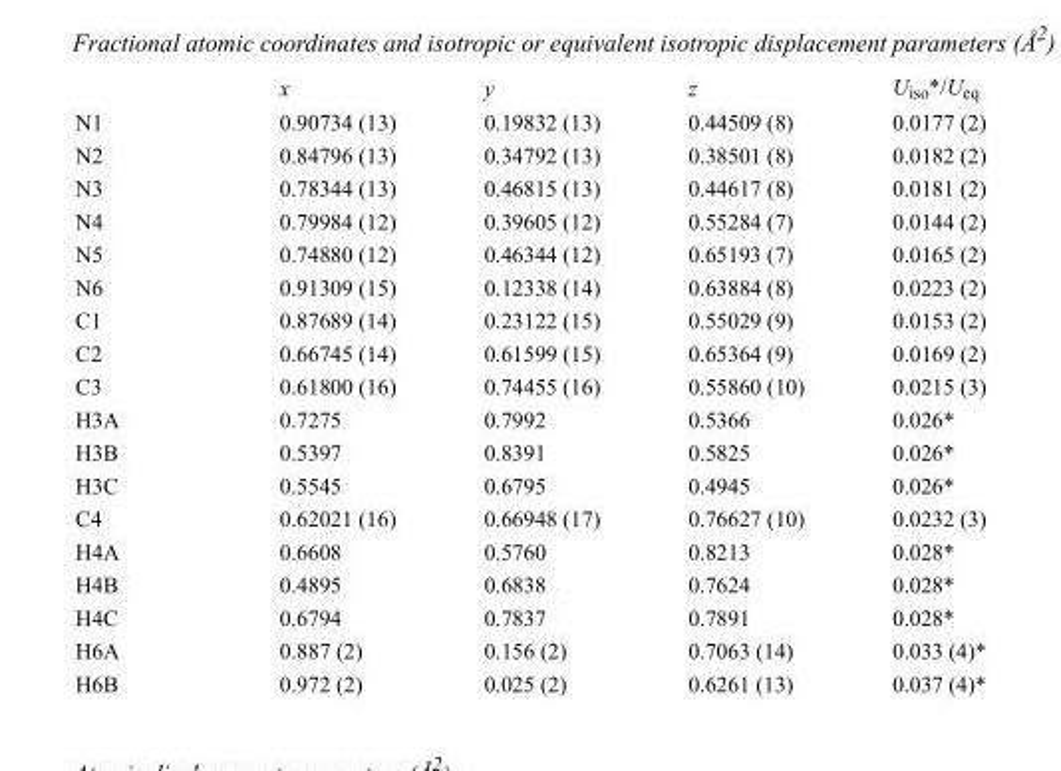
<table><thead><tr><td></td><td>x</td><td>y</td><td>z</td><td>U<sub>iso</sub>*/U<sub>eq</sub></td></tr></thead><tbody><tr><td>N1</td><td>0.90734 (13)</td><td>0.19832 (13)</td><td>0.44509 (8)</td><td>0.0177 (2)</td></tr><tr><td>N2</td><td>0.84796 (13)</td><td>0.34792 (13)</td><td>0.38501 (8)</td><td>0.0182 (2)</td></tr><tr><td>N3</td><td>0.78344 (13)</td><td>0.46815 (13)</td><td>0.44617 (8)</td><td>0.0181 (2)</td></tr><tr><td>N4</td><td>0.79984 (12)</td><td>0.39605 (12)</td><td>0.55284 (7)</td><td>0.0144 (2)</td></tr><tr><td>N5</td><td>0.74880 (12)</td><td>0.46344 (12)</td><td>0.65193 (7)</td><td>0.0165 (2)</td></tr><tr><td>N6</td><td>0.91309 (15)</td><td>0.12338 (14)</td><td>0.63884 (8)</td><td>0.0223 (2)</td></tr><tr><td>C1</td><td>0.87689 (14)</td><td>0.23122 (15)</td><td>0.55029 (9)</td><td>0.0153 (2)</td></tr><tr><td>C2</td><td>0.66745 (14)</td><td>0.61599 (15)</td><td>0.65364 (9)</td><td>0.0169 (2)</td></tr><tr><td>C3</td><td>0.61800 (16)</td><td>0.74455 (16)</td><td>0.55860 (10)</td><td>0.0215 (3)</td></tr><tr><td>H3A</td><td>0.7275</td><td>0.7992</td><td>0.5366</td><td>0.026*</td></tr><tr><td>H3B</td><td>0.5397</td><td>0.8391</td><td>0.5825</td><td>0.026*</td></tr><tr><td>H3C</td><td>0.5545</td><td>0.6795</td><td>0.4945</td><td>0.026*</td></tr><tr><td>C4</td><td>0.62021 (16)</td><td>0.66948 (17)</td><td>0.76627 (10)</td><td>0.0232 (3)</td></tr><tr><td>H4A</td><td>0.6608</td><td>0.5760</td><td>0.8213</td><td>0.028*</td></tr><tr><td>H4B</td><td>0.4895</td><td>0.6838</td><td>0.7624</td><td>0.028*</td></tr><tr><td>H4C</td><td>0.6794</td><td>0.7837</td><td>0.7891</td><td>0.028*</td></tr><tr><td>H6A</td><td>0.887 (2)</td><td>0.156 (2)</td><td>0.7063 (14)</td><td>0.033 (4)*</td></tr><tr><td>H6B</td><td>0.972 (2)</td><td>0.025 (2)</td><td>0.6261 (13)</td><td>0.037 (4)*</td></tr></tbody></table>